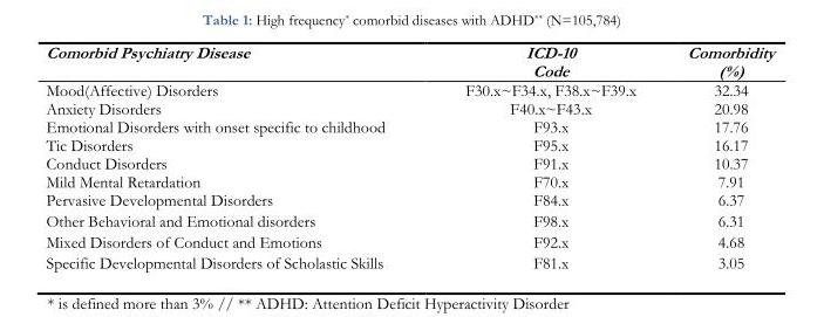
<table><thead><tr><td>Comorbid Psychiatry Disease</td><td>ICD-10 Code</td><td>Comorbidity (%)</td></tr></thead><tbody><tr><td>Mood(Affective) Disorders</td><td>F30.x~F34.x, F38.x~F39.x</td><td>32.34</td></tr><tr><td>Anxiety Disorders</td><td>F40.x~F43.x</td><td>20.98</td></tr><tr><td>Emotional Disorders with onset specific to childhood</td><td>F93.x</td><td>17.76</td></tr><tr><td>Tic Disorders</td><td>F95.x</td><td>16.17</td></tr><tr><td>Conduct Disorders</td><td>F91.x</td><td>10.37</td></tr><tr><td>Mild Mental Retardation</td><td>F70.x</td><td>7.91</td></tr><tr><td>Pervasive Developmental Disorders</td><td>F84.x</td><td>6.37</td></tr><tr><td>Other Behavioral and Emotional disorders</td><td>F98.x</td><td>6.31</td></tr><tr><td>Mixed Disorders of Conduct and Emotions</td><td>F92.x</td><td>4.68</td></tr><tr><td>Specific Developmental Disorders of Scholastic Skills</td><td>F81.x</td><td>3.05</td></tr></tbody></table>